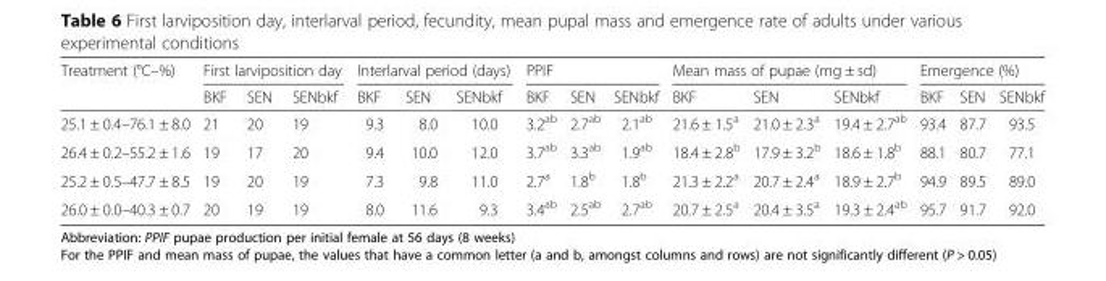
<table><thead><tr><td rowspan="2">Treatment (°C–%)</td><td colspan="3">First larviposition day</td><td colspan="3">Interlarval period (days)</td><td colspan="3">PPIF</td><td colspan="3">Mean mass of pupae (mg ± sd)</td><td colspan="3">Emergence (%)</td></tr><tr><td>BKF</td><td>SEN</td><td>SENbkf</td><td>BKF</td><td>SEN</td><td>SENbkf</td><td>BKF</td><td>SEN</td><td>SENbkf</td><td>BKF</td><td>SEN</td><td>SENbkf</td><td>BKF</td><td>SEN</td><td>SENbkf</td></tr></thead><tbody><tr><td>25.1 ± 0.4–76.1 ± 8.0</td><td>21</td><td>20</td><td>19</td><td>9.3</td><td>8.0</td><td>10.0</td><td>3.2<sup>ab</sup></td><td>2.7<sup>ab</sup></td><td>2.1<sup>ab</sup></td><td>21.6 ± 1.5<sup>a</sup></td><td>21.0 ± 2.3<sup>a</sup></td><td>19.4 ± 2.7<sup>ab</sup></td><td>93.4</td><td>87.7</td><td>93.5</td></tr><tr><td>26.4 ± 0.2–55.2 ± 1.6</td><td>19</td><td>17</td><td>20</td><td>9.4</td><td>10.0</td><td>12.0</td><td>3.7<sup>ab</sup></td><td>3.3<sup>ab</sup></td><td>1.9<sup>ab</sup></td><td>18.4 ± 2.8<sup>b</sup></td><td>17.9 ± 3.2<sup>b</sup></td><td>18.6 ± 1.8<sup>b</sup></td><td>88.1</td><td>80.7</td><td>77.1</td></tr><tr><td>25.2 ± 0.5–47.7 ± 8.5</td><td>19</td><td>20</td><td>19</td><td>7.3</td><td>9.8</td><td>11.0</td><td>2.7<sup>a</sup></td><td>1.8<sup>b</sup></td><td>1.8<sup>b</sup></td><td>21.3 ± 2.2<sup>a</sup></td><td>20.7 ± 2.4<sup>a</sup></td><td>18.9 ± 2.7<sup>b</sup></td><td>94.9</td><td>89.5</td><td>89.0</td></tr><tr><td>26.0 ± 0.0–40.3 ± 0.7</td><td>20</td><td>19</td><td>19</td><td>8.0</td><td>11.6</td><td>9.3</td><td>3.4<sup>ab</sup></td><td>2.5<sup>ab</sup></td><td>2.7<sup>ab</sup></td><td>20.7 ± 2.5<sup>a</sup></td><td>20.4 ± 3.5<sup>a</sup></td><td>19.3 ± 2.4<sup>ab</sup></td><td>95.7</td><td>91.7</td><td>92.0</td></tr></tbody></table>